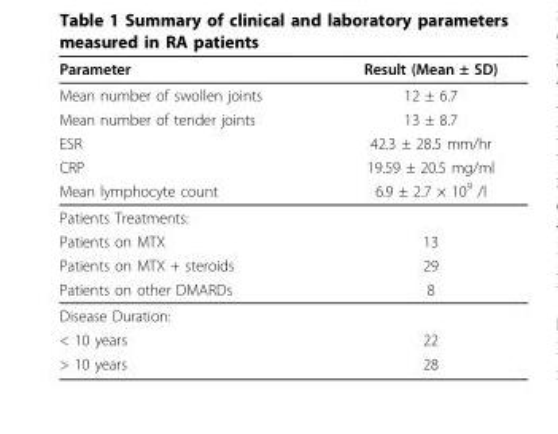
<table><thead><tr><td>Parameter</td><td>Result (Mean ± SD)</td></tr></thead><tbody><tr><td>Mean number of swollen joints</td><td>12 ± 6.7</td></tr><tr><td>Mean number of tender joints</td><td>13 ± 8.7</td></tr><tr><td>ESR</td><td>42.3 ± 28.5 mm/hr</td></tr><tr><td>CRP</td><td>19.59 ± 20.5 mg/ml</td></tr><tr><td>Mean lymphocyte count</td><td>6.9 ± 2.7 × 10<sup>9</sup> /l</td></tr><tr><td colspan="2">Patients Treatments:</td></tr><tr><td>Patients on MTX</td><td>13</td></tr><tr><td>Patients on MTX + steroids</td><td>29</td></tr><tr><td>Patients on other DMARDs</td><td>8</td></tr><tr><td colspan="2">Disease Duration:</td></tr><tr><td>&lt; 10 years</td><td>22</td></tr><tr><td>&gt; 10 years</td><td>28</td></tr></tbody></table>